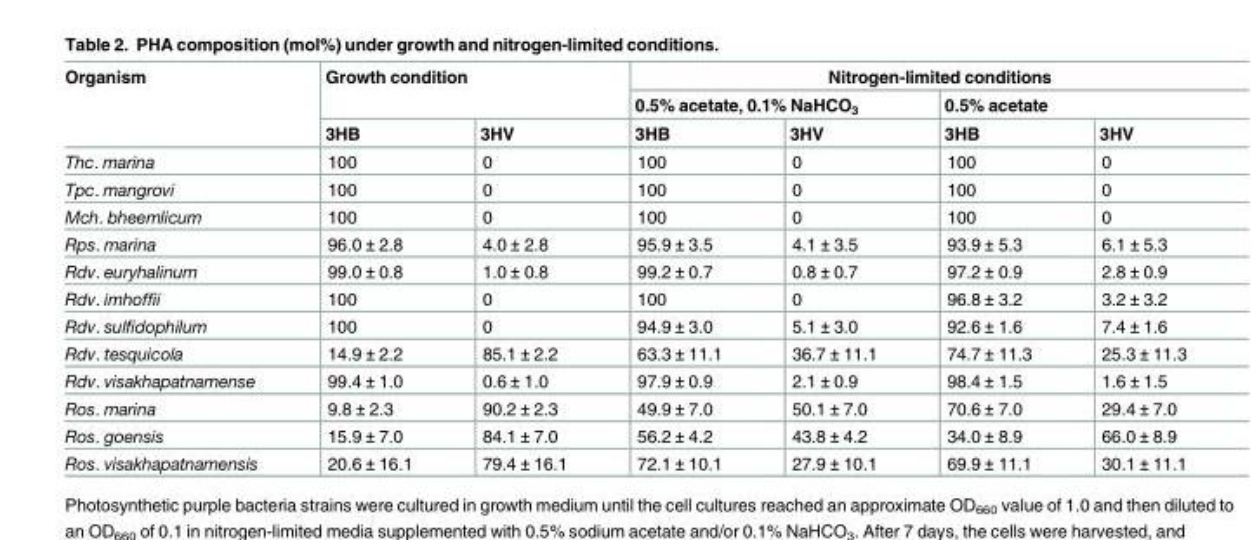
<table><thead><tr><td rowspan="3">Organism</td><td rowspan="2" colspan="2">Growth condition</td><td colspan="4">Nitrogen-limited conditions</td></tr><tr><td colspan="2">0.5% acetate, 0.1% NaHCO<sub>3</sub></td><td colspan="2">0.5% acetate</td></tr><tr><td>3HB</td><td>3HV</td><td>3HB</td><td>3HV</td><td>3HB</td><td>3HV</td></tr></thead><tbody><tr><td>Thc. marina</td><td>100</td><td>0</td><td>100</td><td>0</td><td>100</td><td>0</td></tr><tr><td>Tpc. mangrovi</td><td>100</td><td>0</td><td>100</td><td>0</td><td>100</td><td>0</td></tr><tr><td>Mch. bheemlicum</td><td>100</td><td>0</td><td>100</td><td>0</td><td>100</td><td>0</td></tr><tr><td>Rps. marina</td><td>96.0 ± 2.8</td><td>4.0 ± 2.8</td><td>95.9 ± 3.5</td><td>4.1 ± 3.5</td><td>93.9 ± 5.3</td><td>6.1 ± 5.3</td></tr><tr><td>Rdv. euryhalinum</td><td>99.0 ± 0.8</td><td>1.0 ± 0.8</td><td>99.2 ± 0.7</td><td>0.8 ± 0.7</td><td>97.2 ± 0.9</td><td>2.8 ± 0.9</td></tr><tr><td>Rdv. imhoffii</td><td>100</td><td>0</td><td>100</td><td>0</td><td>96.8 ± 3.2</td><td>3.2 ± 3.2</td></tr><tr><td>Rdv. sulfidophilum</td><td>100</td><td>0</td><td>94.9 ± 3.0</td><td>5.1 ± 3.0</td><td>92.6 ± 1.6</td><td>7.4 ± 1.6</td></tr><tr><td>Rdv. tesquicola</td><td>14.9 ± 2.2</td><td>85.1 ± 2.2</td><td>63.3 ± 11.1</td><td>36.7 ± 11.1</td><td>74.7 ± 11.3</td><td>25.3 ± 11.3</td></tr><tr><td>Rdv. visakhapatnamense</td><td>99.4 ± 1.0</td><td>0.6 ± 1.0</td><td>97.9 ± 0.9</td><td>2.1 ± 0.9</td><td>98.4 ± 1.5</td><td>1.6 ± 1.5</td></tr><tr><td>Ros. marina</td><td>9.8 ± 2.3</td><td>90.2 ± 2.3</td><td>49.9 ± 7.0</td><td>50.1 ± 7.0</td><td>70.6 ± 7.0</td><td>29.4 ± 7.0</td></tr><tr><td>Ros. goensis</td><td>15.9 ± 7.0</td><td>84.1 ± 7.0</td><td>56.2 ± 4.2</td><td>43.8 ± 4.2</td><td>34.0 ± 8.9</td><td>66.0 ± 8.9</td></tr><tr><td>Ros. visakhapatnamensis</td><td>20.6 ± 16.1</td><td>79.4 ± 16.1</td><td>72.1 ± 10.1</td><td>27.9 ± 10.1</td><td>69.9 ± 11.1</td><td>30.1 ± 11.1</td></tr></tbody></table>